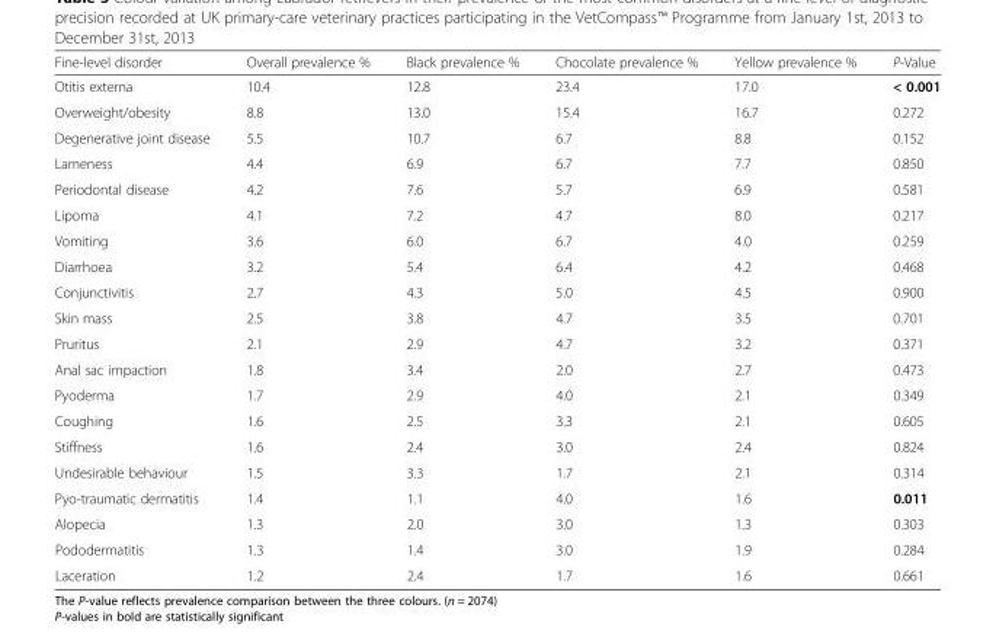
<table><thead><tr><td>Fine-level disorder</td><td>Overall prevalence %</td><td>Black prevalence %</td><td>Chocolate prevalence %</td><td>Yellow prevalence %</td><td>P-Value</td></tr></thead><tbody><tr><td>Otitis externa</td><td>10.4</td><td>12.8</td><td>23.4</td><td>17.0</td><td>&lt; 0.001</td></tr><tr><td>Overweight/obesity</td><td>8.8</td><td>13.0</td><td>15.4</td><td>16.7</td><td>0.272</td></tr><tr><td>Degenerative joint disease</td><td>5.5</td><td>10.7</td><td>6.7</td><td>8.8</td><td>0.152</td></tr><tr><td>Lameness</td><td>4.4</td><td>6.9</td><td>6.7</td><td>7.7</td><td>0.850</td></tr><tr><td>Periodontal disease</td><td>4.2</td><td>7.6</td><td>5.7</td><td>6.9</td><td>0.581</td></tr><tr><td>Lipoma</td><td>4.1</td><td>7.2</td><td>4.7</td><td>8.0</td><td>0.217</td></tr><tr><td>Vomiting</td><td>3.6</td><td>6.0</td><td>6.7</td><td>4.0</td><td>0.259</td></tr><tr><td>Diarrhoea</td><td>3.2</td><td>5.4</td><td>6.4</td><td>4.2</td><td>0.468</td></tr><tr><td>Conjunctivitis</td><td>2.7</td><td>4.3</td><td>5.0</td><td>4.5</td><td>0.900</td></tr><tr><td>Skin mass</td><td>2.5</td><td>3.8</td><td>4.7</td><td>3.5</td><td>0.701</td></tr><tr><td>Pruritus</td><td>2.1</td><td>2.9</td><td>4.7</td><td>3.2</td><td>0.371</td></tr><tr><td>Anal sac impaction</td><td>1.8</td><td>3.4</td><td>2.0</td><td>2.7</td><td>0.473</td></tr><tr><td>Pyoderma</td><td>1.7</td><td>2.9</td><td>4.0</td><td>2.1</td><td>0.349</td></tr><tr><td>Coughing</td><td>1.6</td><td>2.5</td><td>3.3</td><td>2.1</td><td>0.605</td></tr><tr><td>Stiffness</td><td>1.6</td><td>2.4</td><td>3.0</td><td>2.4</td><td>0.824</td></tr><tr><td>Undesirable behaviour</td><td>1.5</td><td>3.3</td><td>1.7</td><td>2.1</td><td>0.314</td></tr><tr><td>Pyo-traumatic dermatitis</td><td>1.4</td><td>1.1</td><td>4.0</td><td>1.6</td><td>0.011</td></tr><tr><td>Alopecia</td><td>1.3</td><td>2.0</td><td>3.0</td><td>1.3</td><td>0.303</td></tr><tr><td>Pododermatitis</td><td>1.3</td><td>1.4</td><td>3.0</td><td>1.9</td><td>0.284</td></tr><tr><td>Laceration</td><td>1.2</td><td>2.4</td><td>1.7</td><td>1.6</td><td>0.661</td></tr></tbody></table>